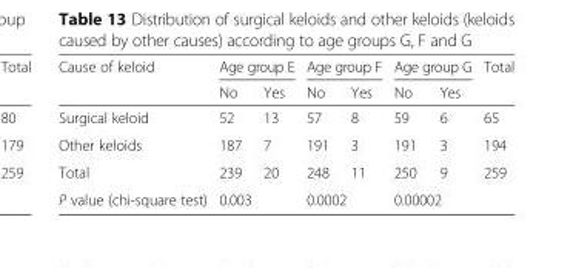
<table><thead><tr><td rowspan="2">Cause of keloid</td><td colspan="2">Age group E</td><td colspan="2">Age group F</td><td colspan="2">Age group G</td><td rowspan="2">Total</td></tr><tr><td>No</td><td>Yes</td><td>No</td><td>Yes</td><td>No</td><td>Yes</td></tr></thead><tbody><tr><td>Surgical keloid</td><td>52</td><td>13</td><td>57</td><td>8</td><td>59</td><td>6</td><td>65</td></tr><tr><td>Other keloids</td><td>187</td><td>7</td><td>191</td><td>3</td><td>191</td><td>3</td><td>194</td></tr><tr><td>Total</td><td>239</td><td>20</td><td>248</td><td>11</td><td>250</td><td>9</td><td>259</td></tr><tr><td>P value (chi-square test)</td><td colspan="2">0.003</td><td colspan="2">0.0002</td><td colspan="2">0.00002</td><td></td></tr></tbody></table>